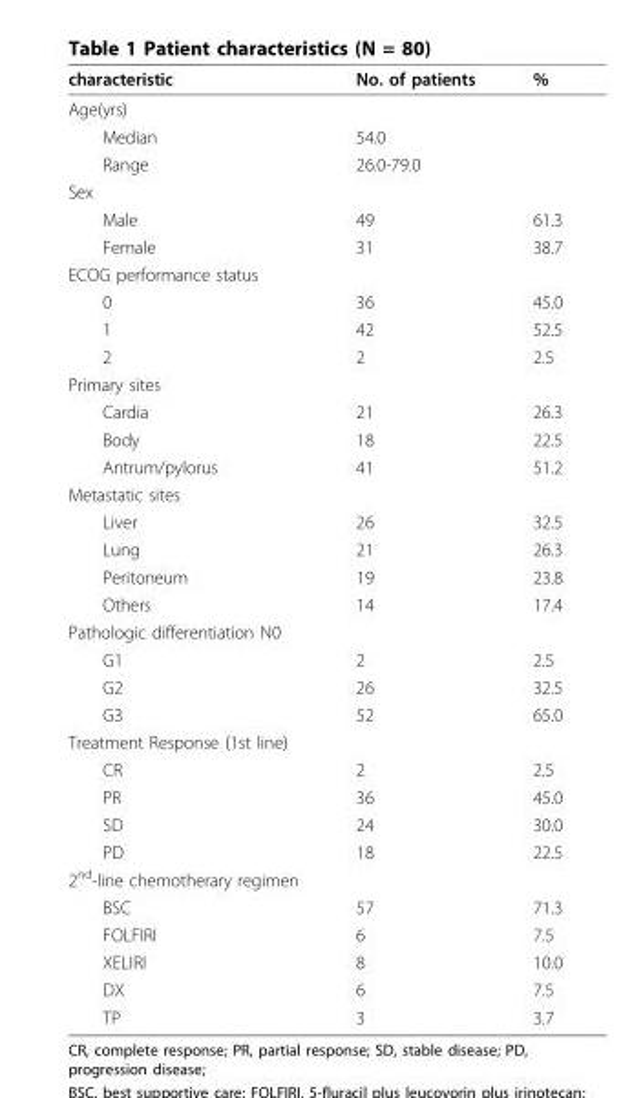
<table><thead><tr><td>characteristic</td><td>No. of patients</td><td>%</td></tr></thead><tbody><tr><td colspan="3">Age(yrs)</td></tr><tr><td>Median</td><td>54.0</td><td></td></tr><tr><td>Range</td><td>26.0-79.0</td><td></td></tr><tr><td colspan="3">Sex</td></tr><tr><td>Male</td><td>49</td><td>61.3</td></tr><tr><td>Female</td><td>31</td><td>38.7</td></tr><tr><td colspan="3">ECOG performance status</td></tr><tr><td>0</td><td>36</td><td>45.0</td></tr><tr><td>1</td><td>42</td><td>52.5</td></tr><tr><td>2</td><td>2</td><td>2.5</td></tr><tr><td colspan="3">Primary sites</td></tr><tr><td>Cardia</td><td>21</td><td>26.3</td></tr><tr><td>Body</td><td>18</td><td>22.5</td></tr><tr><td>Antrum/pylorus</td><td>41</td><td>51.2</td></tr><tr><td colspan="3">Metastatic sites</td></tr><tr><td>Liver</td><td>26</td><td>32.5</td></tr><tr><td>Lung</td><td>21</td><td>26.3</td></tr><tr><td>Peritoneum</td><td>19</td><td>23.8</td></tr><tr><td>Others</td><td>14</td><td>17.4</td></tr><tr><td colspan="3">Pathologic differentiation N0</td></tr><tr><td>G1</td><td>2</td><td>2.5</td></tr><tr><td>G2</td><td>26</td><td>32.5</td></tr><tr><td>G3</td><td>52</td><td>65.0</td></tr><tr><td colspan="3">Treatment Response (1st line)</td></tr><tr><td>CR</td><td>2</td><td>2.5</td></tr><tr><td>PR</td><td>36</td><td>45.0</td></tr><tr><td>SD</td><td>24</td><td>30.0</td></tr><tr><td>PD</td><td>18</td><td>22.5</td></tr><tr><td colspan="3">2<sup>nd</sup>-line chemotherary regimen</td></tr><tr><td>BSC</td><td>57</td><td>71.3</td></tr><tr><td>FOLFIRI</td><td>6</td><td>7.5</td></tr><tr><td>XELIRI</td><td>8</td><td>10.0</td></tr><tr><td>DX</td><td>6</td><td>7.5</td></tr><tr><td>TP</td><td>3</td><td>3.7</td></tr></tbody></table>